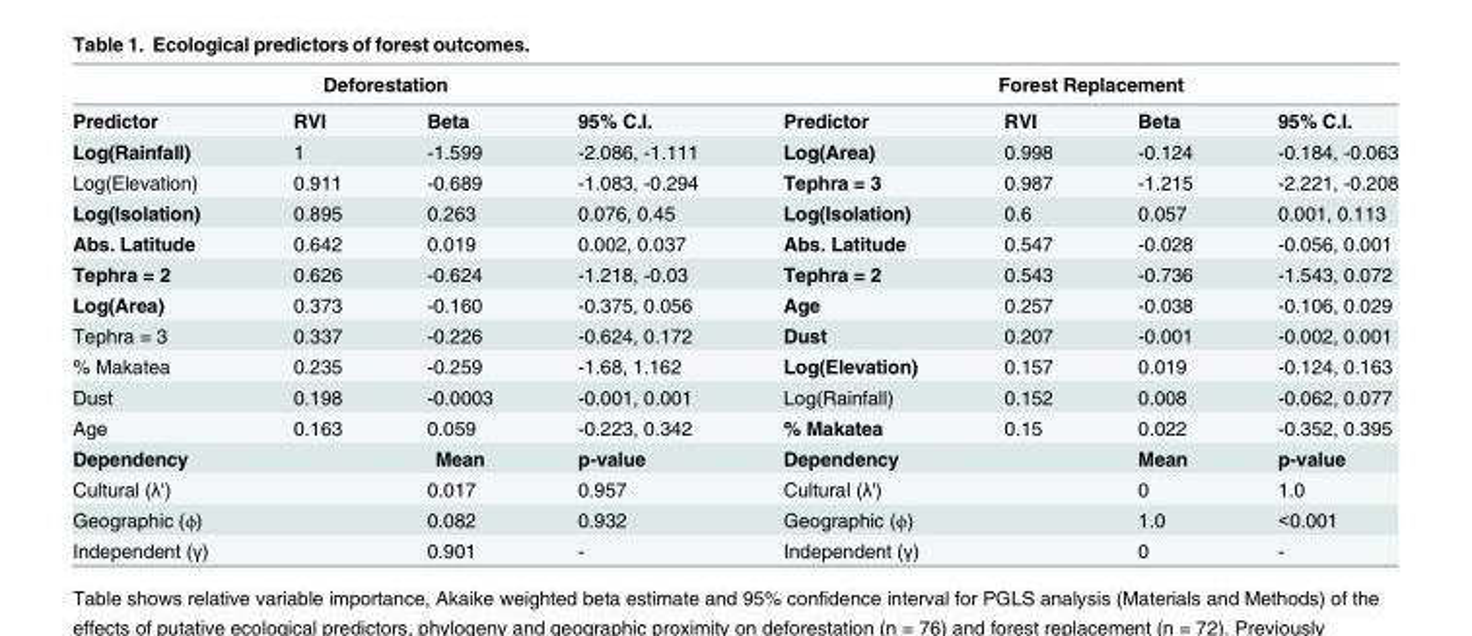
<table><thead><tr><td colspan="4">Deforestation</td><td colspan="4">Forest Replacement</td></tr><tr><td>Predictor</td><td>RVI</td><td>Beta</td><td>95% C.I.</td><td>Predictor</td><td>RVI</td><td>Beta</td><td>95% C.I.</td></tr></thead><tbody><tr><td>Log(Rainfall)</td><td>1</td><td>-1.599</td><td>-2.086, -1.111</td><td>Log(Area)</td><td>0.998</td><td>-0.124</td><td>-0.184, -0.063</td></tr><tr><td>Log(Elevation)</td><td>0.911</td><td>-0.689</td><td>-1.083, -0.294</td><td>Tephra = 3</td><td>0.987</td><td>-1.215</td><td>-2.221, -0.208</td></tr><tr><td>Log(Isolation)</td><td>0.895</td><td>0.263</td><td>0.076, 0.45</td><td>Log(Isolation)</td><td>0.6</td><td>0.057</td><td>0.001, 0.113</td></tr><tr><td>Abs. Latitude</td><td>0.642</td><td>0.019</td><td>0.002, 0.037</td><td>Abs. Latitude</td><td>0.547</td><td>-0.028</td><td>-0.056, 0.001</td></tr><tr><td>Tephra = 2</td><td>0.626</td><td>-0.624</td><td>-1.218, -0.03</td><td>Tephra = 2</td><td>0.543</td><td>-0.736</td><td>-1.543, 0.072</td></tr><tr><td>Log(Area)</td><td>0.373</td><td>-0.160</td><td>-0.375, 0.056</td><td>Age</td><td>0.257</td><td>-0.038</td><td>-0.106, 0.029</td></tr><tr><td>Tephra = 3</td><td>0.337</td><td>-0.226</td><td>-0.624, 0.172</td><td>Dust</td><td>0.207</td><td>-0.001</td><td>-0.002, 0.001</td></tr><tr><td>% Makatea</td><td>0.235</td><td>-0.259</td><td>-1.68, 1.162</td><td>Log(Elevation)</td><td>0.157</td><td>0.019</td><td>-0.124, 0.163</td></tr><tr><td>Dust</td><td>0.198</td><td>-0.0003</td><td>-0.001, 0.001</td><td>Log(Rainfall)</td><td>0.152</td><td>0.008</td><td>-0.062, 0.077</td></tr><tr><td>Age</td><td>0.163</td><td>0.059</td><td>-0.223, 0.342</td><td>% Makatea</td><td>0.15</td><td>0.022</td><td>-0.352, 0.395</td></tr><tr><td>Dependency</td><td></td><td>Mean</td><td>p-value</td><td>Dependency</td><td></td><td>Mean</td><td>p-value</td></tr><tr><td>Cultural (λ&#x27;)</td><td></td><td>0.017</td><td>0.957</td><td>Cultural (λ&#x27;)</td><td></td><td>0</td><td>1.0</td></tr><tr><td>Geographic (ϕ)</td><td></td><td>0.082</td><td>0.932</td><td>Geographic (ϕ)</td><td></td><td>1.0</td><td>&lt;0.001</td></tr><tr><td>Independent (γ)</td><td></td><td>0.901</td><td>-</td><td>Independent (γ)</td><td></td><td>0</td><td>-</td></tr></tbody></table>